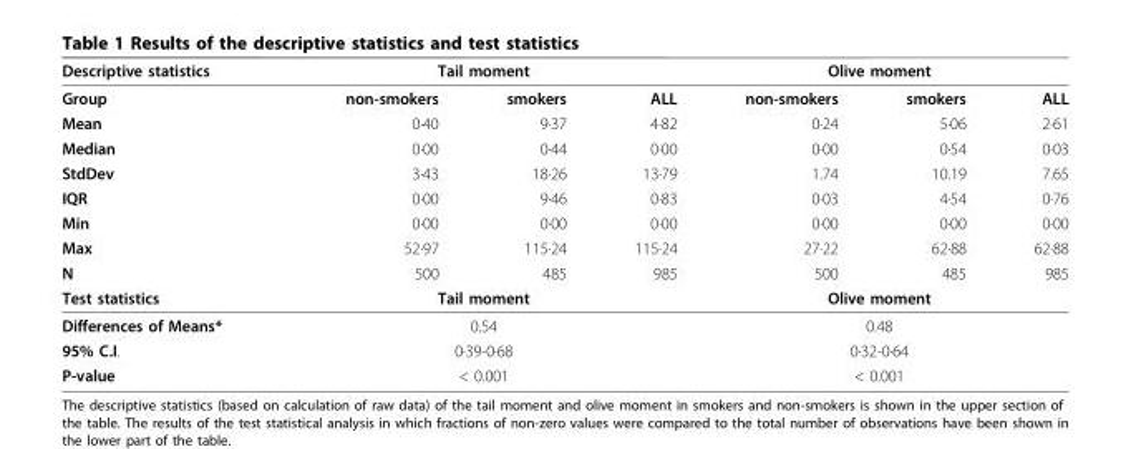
<table><thead><tr><td rowspan="2">Descriptive statistics Group</td><td colspan="3">Tail moment</td><td colspan="3">Olive moment</td></tr><tr><td>non-smokers</td><td>smokers</td><td>ALL</td><td>non-smokers</td><td>smokers</td><td>ALL</td></tr></thead><tbody><tr><td>Mean</td><td>0·40</td><td>9·37</td><td>4·82</td><td>0·24</td><td>5·06</td><td>2·61</td></tr><tr><td>Median</td><td>0·00</td><td>0·44</td><td>0·00</td><td>0·00</td><td>0·54</td><td>0·03</td></tr><tr><td>StdDev</td><td>3·43</td><td>18·26</td><td>13·79</td><td>1.74</td><td>10.19</td><td>7.65</td></tr><tr><td>IQR</td><td>0·00</td><td>9·46</td><td>0·83</td><td>0·03</td><td>4·54</td><td>0·76</td></tr><tr><td>Min</td><td>0·00</td><td>0·00</td><td>0·00</td><td>0·00</td><td>0·00</td><td>0·00</td></tr><tr><td>Max</td><td>52·97</td><td>115·24</td><td>115·24</td><td>27·22</td><td>62·88</td><td>62·88</td></tr><tr><td>N</td><td>500</td><td>485</td><td>985</td><td>500</td><td>485</td><td>985</td></tr><tr><td>Test statistics</td><td colspan="3">Tail moment</td><td colspan="3">Olive moment</td></tr><tr><td>Differences of Means*</td><td colspan="3">0.54</td><td colspan="3">0.48</td></tr><tr><td>95% C.I.</td><td colspan="3">0·39-0·68</td><td colspan="3">0·32-0·64</td></tr><tr><td>P-value</td><td colspan="3">&lt; 0.001</td><td colspan="3">&lt; 0.001</td></tr></tbody></table>